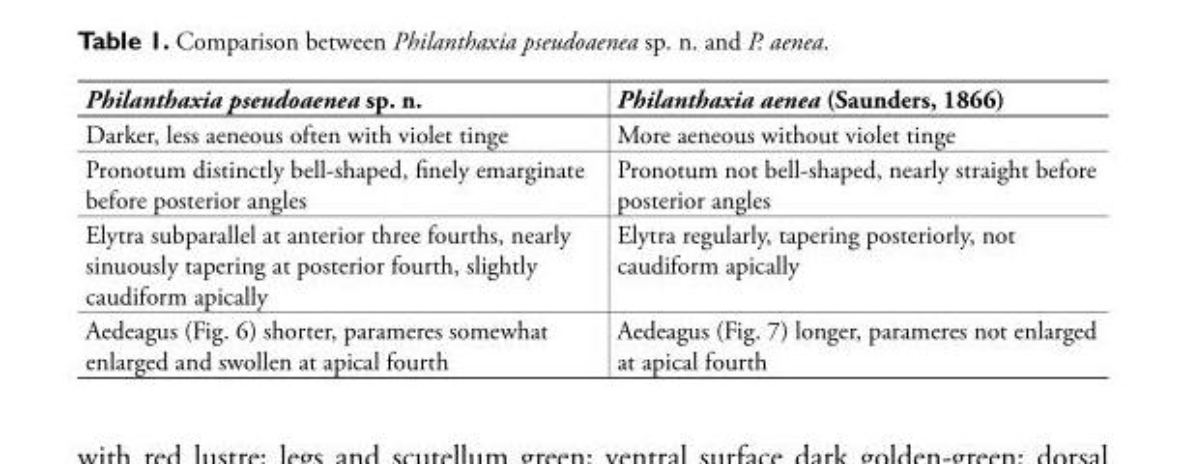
<table><thead><tr><td>Philanthaxia pseudoaenea sp. n.</td><td>Philanthaxia aenea (Saunders, 1866)</td></tr></thead><tbody><tr><td>Darker, less aeneous often with violet tinge</td><td>More aeneous without violet tinge</td></tr><tr><td>Pronotum distinctly bell-shaped, finely emarginate before posterior angles</td><td>Pronotum not bell-shaped, nearly straight before posterior angles</td></tr><tr><td>Elytra subparallel at anterior three fourths, nearly sinuously tapering at posterior fourth, slightly caudiform apically</td><td>Elytra regularly, tapering posteriorly, not caudiform apically</td></tr><tr><td>Aedeagus (Fig. 6) shorter, parameres somewhat enlarged and swollen at apical fourth</td><td>Aedeagus (Fig. 7) longer, parameres not enlarged at apical fourth</td></tr></tbody></table>